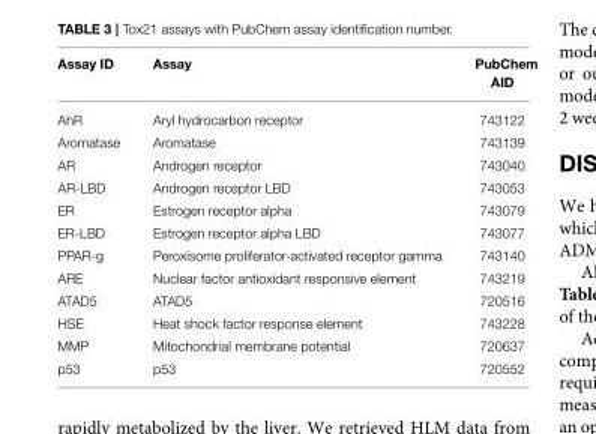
<table><thead><tr><td>Assay ID</td><td>Assay</td><td>PubChem AID</td></tr></thead><tbody><tr><td>AhR</td><td>Aryl hydrocarbon receptor</td><td>743122</td></tr><tr><td>Aromatase</td><td>Aromatase</td><td>743139</td></tr><tr><td>AR</td><td>Androgen receptor</td><td>743040</td></tr><tr><td>AR-LBD</td><td>Androgen receptor LBD</td><td>743053</td></tr><tr><td>ER</td><td>Estrogen receptor alpha</td><td>743079</td></tr><tr><td>ER-LBD</td><td>Estrogen receptor alpha LBD</td><td>743077</td></tr><tr><td>PPAR-g</td><td>Peroxisome proliferator-activated receptor gamma</td><td>743140</td></tr><tr><td>ARE</td><td>Nuclear factor antioxidant responsive element</td><td>743219</td></tr><tr><td>ATAD5</td><td>ATAD5</td><td>720516</td></tr><tr><td>HSE</td><td>Heat shock factor response element</td><td>743228</td></tr><tr><td>MMP</td><td>Mitochondrial membrane potential</td><td>720637</td></tr><tr><td>p53</td><td>p53</td><td>720552</td></tr></tbody></table>